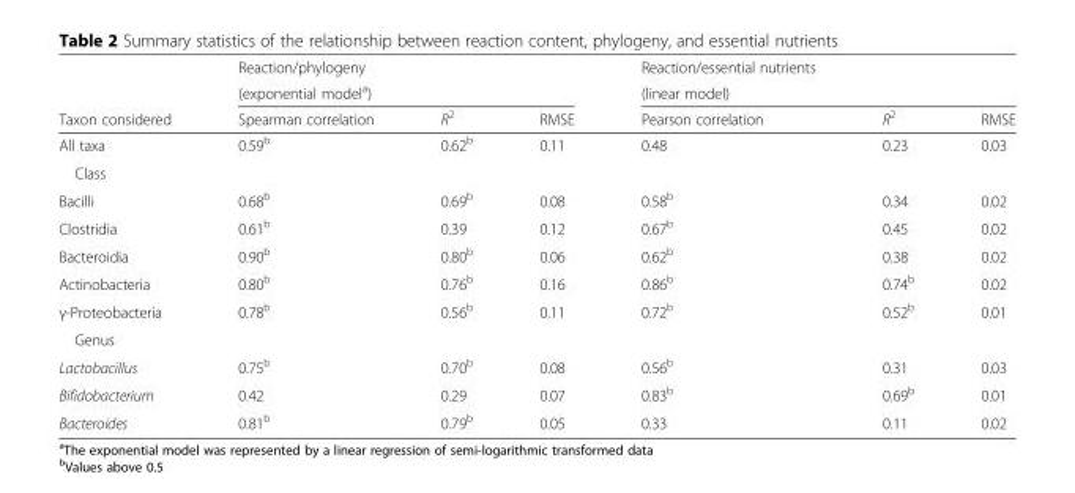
<table><thead><tr><td rowspan="3">Taxon considered</td><td>Reaction/phylogeny</td><td></td><td></td><td>Reaction/essential nutrients</td><td></td><td></td></tr><tr><td colspan="3">(exponential model<sup>a</sup>)</td><td colspan="3">(linear model)</td></tr><tr><td>Spearman correlation</td><td>R<sup>2</sup></td><td>RMSE</td><td>Pearson correlation</td><td>R<sup>2</sup></td><td>RMSE</td></tr></thead><tbody><tr><td>All taxa</td><td>0.59<sup>b</sup></td><td>0.62<sup>b</sup></td><td>0.11</td><td>0.48</td><td>0.23</td><td>0.03</td></tr><tr><td colspan="7">Class</td></tr><tr><td>Bacilli</td><td>0.68<sup>b</sup></td><td>0.69<sup>b</sup></td><td>0.08</td><td>0.58<sup>b</sup></td><td>0.34</td><td>0.02</td></tr><tr><td>Clostridia</td><td>0.61<sup>b</sup></td><td>0.39</td><td>0.12</td><td>0.67<sup>b</sup></td><td>0.45</td><td>0.02</td></tr><tr><td>Bacteroidia</td><td>0.90<sup>b</sup></td><td>0.80<sup>b</sup></td><td>0.06</td><td>0.62<sup>b</sup></td><td>0.38</td><td>0.02</td></tr><tr><td>Actinobacteria</td><td>0.80<sup>b</sup></td><td>0.76<sup>b</sup></td><td>0.16</td><td>0.86<sup>b</sup></td><td>0.74<sup>b</sup></td><td>0.02</td></tr><tr><td>γ-Proteobacteria</td><td>0.78<sup>b</sup></td><td>0.56<sup>b</sup></td><td>0.11</td><td>0.72<sup>b</sup></td><td>0.52<sup>b</sup></td><td>0.01</td></tr><tr><td colspan="7">Genus</td></tr><tr><td>Lactobacillus</td><td>0.75<sup>b</sup></td><td>0.70<sup>b</sup></td><td>0.08</td><td>0.56<sup>b</sup></td><td>0.31</td><td>0.03</td></tr><tr><td>Bifidobacterium</td><td>0.42</td><td>0.29</td><td>0.07</td><td>0.83<sup>b</sup></td><td>0.69<sup>b</sup></td><td>0.01</td></tr><tr><td>Bacteroides</td><td>0.81<sup>b</sup></td><td>0.79<sup>b</sup></td><td>0.05</td><td>0.33</td><td>0.11</td><td>0.02</td></tr></tbody></table>